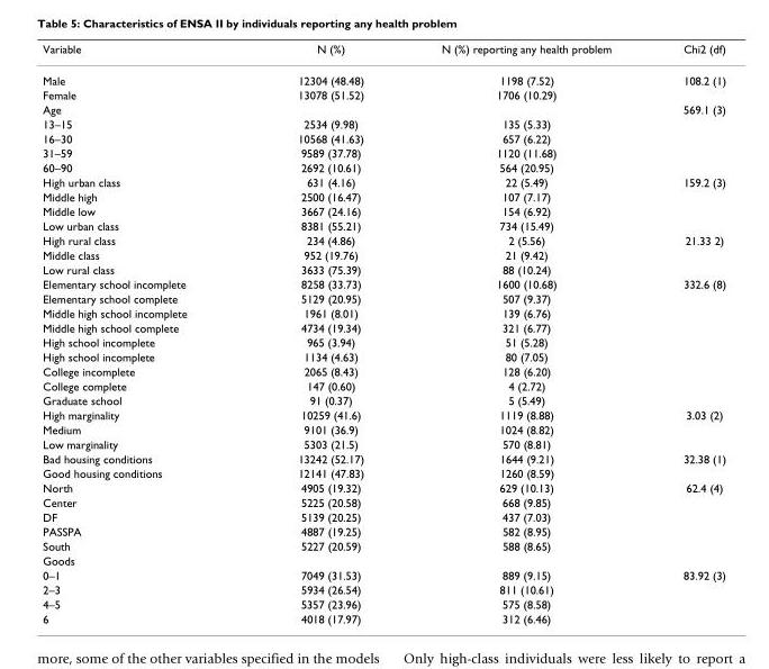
<table><thead><tr><td>Variable</td><td>N (%)</td><td>N (%) reporting any health problem</td><td>Chi2 (df)</td></tr></thead><tbody><tr><td>Male</td><td>12304 (48.48)</td><td>1198 (7.52)</td><td>108.2 (1)</td></tr><tr><td>Female</td><td>13078 (51.52)</td><td>1706 (10.29)</td><td></td></tr><tr><td>Age</td><td></td><td></td><td>569.1 (3)</td></tr><tr><td>13–15</td><td>2534 (9.98)</td><td>135 (5.33)</td><td></td></tr><tr><td>16–30</td><td>10568 (41.63)</td><td>657 (6.22)</td><td></td></tr><tr><td>31–59</td><td>9589 (37.78)</td><td>1120 (11.68)</td><td></td></tr><tr><td>60–90</td><td>2692 (10.61)</td><td>564 (20.95)</td><td></td></tr><tr><td>High urban class</td><td>631 (4.16)</td><td>22 (5.49)</td><td>159.2 (3)</td></tr><tr><td>Middle high</td><td>2500 (16.47)</td><td>107 (7.17)</td><td></td></tr><tr><td>Middle low</td><td>3667 (24.16)</td><td>154 (6.92)</td><td></td></tr><tr><td>Low urban class</td><td>8381 (55.21)</td><td>734 (15.49)</td><td></td></tr><tr><td>High rural class</td><td>234 (4.86)</td><td>2 (5.56)</td><td>21.33 2)</td></tr><tr><td>Middle class</td><td>952 (19.76)</td><td>21 (9.42)</td><td></td></tr><tr><td>Low rural class</td><td>3633 (75.39)</td><td>88 (10.24)</td><td></td></tr><tr><td>Elementary school incomplete</td><td>8258 (33.73)</td><td>1600 (10.68)</td><td>332.6 (8)</td></tr><tr><td>Elementary school complete</td><td>5129 (20.95)</td><td>507 (9.37)</td><td></td></tr><tr><td>Middle high school incomplete</td><td>1961 (8.01)</td><td>139 (6.76)</td><td></td></tr><tr><td>Middle high school complete</td><td>4734 (19.34)</td><td>321 (6.77)</td><td></td></tr><tr><td>High school incomplete</td><td>965 (3.94)</td><td>51 (5.28)</td><td></td></tr><tr><td>High school incomplete</td><td>1134 (4.63)</td><td>80 (7.05)</td><td></td></tr><tr><td>College incomplete</td><td>2065 (8.43)</td><td>128 (6.20)</td><td></td></tr><tr><td>College complete</td><td>147 (0.60)</td><td>4 (2.72)</td><td></td></tr><tr><td>Graduate school</td><td>91 (0.37)</td><td>5 (5.49)</td><td></td></tr><tr><td>High marginality</td><td>10259 (41.6)</td><td>1119 (8.88)</td><td>3.03 (2)</td></tr><tr><td>Medium</td><td>9101 (36.9)</td><td>1024 (8.82)</td><td></td></tr><tr><td>Low marginality</td><td>5303 (21.5)</td><td>570 (8.81)</td><td></td></tr><tr><td>Bad housing conditions</td><td>13242 (52.17)</td><td>1644 (9.21)</td><td>32.38 (1)</td></tr><tr><td>Good housing conditions</td><td>12141 (47.83)</td><td>1260 (8.59)</td><td></td></tr><tr><td>North</td><td>4905 (19.32)</td><td>629 (10.13)</td><td>62.4 (4)</td></tr><tr><td>Center</td><td>5225 (20.58)</td><td>668 (9.85)</td><td></td></tr><tr><td>DF</td><td>5139 (20.25)</td><td>437 (7.03)</td><td></td></tr><tr><td>PASSPA</td><td>4887 (19.25)</td><td>582 (8.95)</td><td></td></tr><tr><td>South</td><td>5227 (20.59)</td><td>588 (8.65)</td><td></td></tr><tr><td colspan="4">Goods</td></tr><tr><td>0–1</td><td>7049 (31.53)</td><td>889 (9.15)</td><td>83.92 (3)</td></tr><tr><td>2–3</td><td>5934 (26.54)</td><td>811 (10.61)</td><td></td></tr><tr><td>4–5</td><td>5357 (23.96)</td><td>575 (8.58)</td><td></td></tr><tr><td>6</td><td>4018 (17.97)</td><td>312 (6.46)</td><td></td></tr></tbody></table>